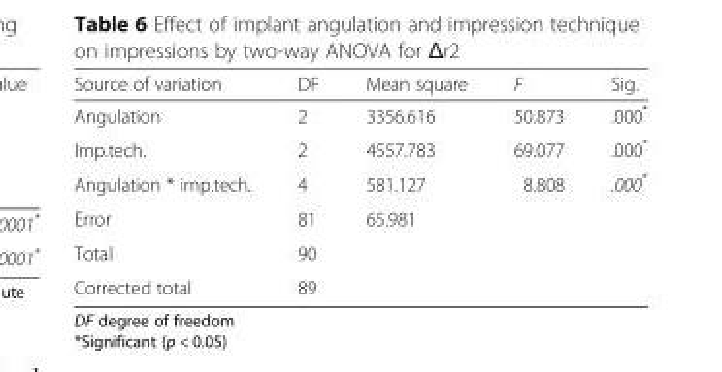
<table><thead><tr><td>Source of variation</td><td>DF</td><td>Mean square</td><td>F</td><td>Sig.</td></tr></thead><tbody><tr><td>Angulation</td><td>2</td><td>3356.616</td><td>50.873</td><td>.000*</td></tr><tr><td>Imp.tech.</td><td>2</td><td>4557.783</td><td>69.077</td><td>.000*</td></tr><tr><td>Angulation * imp.tech.</td><td>4</td><td>581.127</td><td>8.808</td><td>.000*</td></tr><tr><td>Error</td><td>81</td><td>65.981</td><td></td><td></td></tr><tr><td>Total</td><td>90</td><td></td><td></td><td></td></tr><tr><td>Corrected total</td><td>89</td><td></td><td></td><td></td></tr></tbody></table>